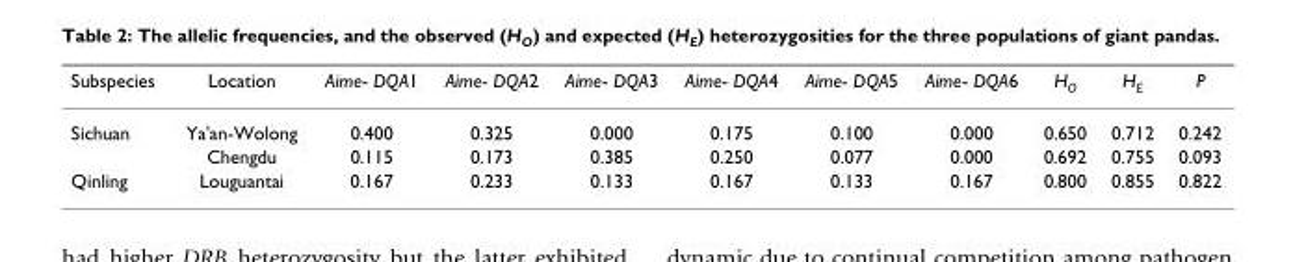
<table><thead><tr><td>Subspecies</td><td>Location</td><td>Aime- DQA1</td><td>Aime- DQA2</td><td>Aime- DQA3</td><td>Aime- DQA4</td><td>Aime- DQA5</td><td>Aime- DQA6</td><td>H<sub>O</sub></td><td>H<sub>E</sub></td><td>P</td></tr></thead><tbody><tr><td rowspan="2">Sichuan</td><td>Ya&#x27;an-Wolong</td><td>0.400</td><td>0.325</td><td>0.000</td><td>0.175</td><td>0.100</td><td>0.000</td><td>0.650</td><td>0.712</td><td>0.242</td></tr><tr><td>Chengdu</td><td>0.115</td><td>0.173</td><td>0.385</td><td>0.250</td><td>0.077</td><td>0.000</td><td>0.692</td><td>0.755</td><td>0.093</td></tr><tr><td>Qinling</td><td>Louguantai</td><td>0.167</td><td>0.233</td><td>0.133</td><td>0.167</td><td>0.133</td><td>0.167</td><td>0.800</td><td>0.855</td><td>0.822</td></tr></tbody></table>